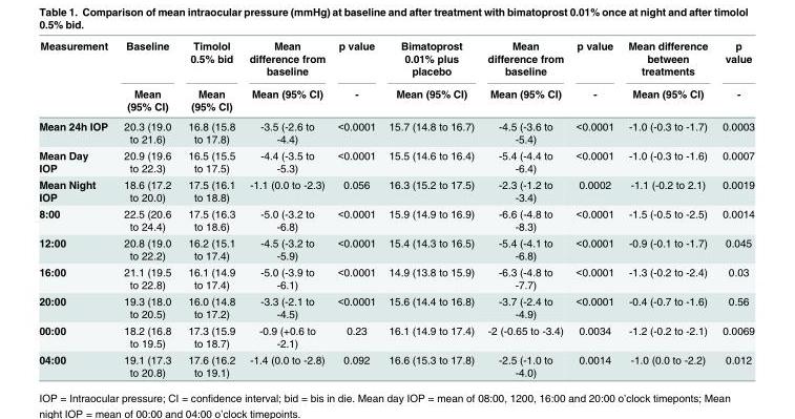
<table><thead><tr><td rowspan="2">Measurement</td><td rowspan="2">Baseline Mean (95% CI)</td><td rowspan="2">Timolol 0.5% bid Mean (95% CI)</td><td rowspan="2">Mean difference from baseline Mean (95% CI)</td><td rowspan="2">p value -</td><td rowspan="2">Bimatoprost 0.01% plus placebo Mean (95% CI)</td><td rowspan="2">Mean difference from baseline Mean (95% CI)</td><td rowspan="2">p value -</td><td rowspan="2">Mean difference between treatments Mean (95% CI)</td><td rowspan="2">p value -</td></tr><tr></tr></thead><tbody><tr><td>Mean 24h IOP</td><td>20.3 (19.0 to 21.6)</td><td>16.8 (15.8 to 17.8)</td><td>-3.5 (-2.6 to -4.4)</td><td>&lt;0.0001</td><td>15.7 (14.8 to 16.7)</td><td>-4.5 (-3.6 to -5.4)</td><td>&lt;0.0001</td><td>-1.0 (-0.3 to -1.7)</td><td>0.0003</td></tr><tr><td>Mean Day IOP</td><td>20.9 (19.6 to 22.3)</td><td>16.5 (15.5 to 17.5)</td><td>-4.4 (-3.5 to -5.3)</td><td>&lt;0.0001</td><td>15.5 (14.6 to 16.4)</td><td>-5.4 (-4.4 to -6.4)</td><td>&lt;0.0001</td><td>-1.0 (-0.3 to -1.6)</td><td>0.0007</td></tr><tr><td>Mean Night IOP</td><td>18.6 (17.2 to 20.0)</td><td>17.5 (16.1 to 18.8)</td><td>-1.1 (0.0 to -2.3)</td><td>0.056</td><td>16.3 (15.2 to 17.5)</td><td>-2.3 (-1.2 to -3.4)</td><td>0.0002</td><td>-1.1 (-0.2 to 2.1)</td><td>0.0019</td></tr><tr><td>8:00</td><td>22.5 (20.6 to 24.4)</td><td>17.5 (16.3 to 18.6)</td><td>-5.0 (-3.2 to -6.8)</td><td>&lt;0.0001</td><td>15.9 (14.9 to 16.9)</td><td>-6.6 (-4.8 to -8.3)</td><td>&lt;0.0001</td><td>-1.5 (-0.5 to -2.5)</td><td>0.0014</td></tr><tr><td>12:00</td><td>20.8 (19.0 to 22.2)</td><td>16.2 (15.1 to 17.4)</td><td>-4.5 (-3.2 to -5.9)</td><td>&lt;0.0001</td><td>15.4 (14.3 to 16.5)</td><td>-5.4 (-4.1 to -6.8)</td><td>&lt;0.0001</td><td>-0.9 (-0.1 to -1.7)</td><td>0.045</td></tr><tr><td>16:00</td><td>21.1 (19.5 to 22.8)</td><td>16.1 (14.9 to 17.4)</td><td>-5.0 (-3.9 to -6.1)</td><td>&lt;0.0001</td><td>14.9 (13.8 to 15.9)</td><td>-6.3 (-4.8 to -7.7)</td><td>&lt;0.0001</td><td>-1.3 (-0.2 to -2.4)</td><td>0.03</td></tr><tr><td>20:00</td><td>19.3 (18.0 to 20.5)</td><td>16.0 (14.8 to 17.2)</td><td>-3.3 (-2.1 to -4.5)</td><td>&lt;0.0001</td><td>15.6 (14.4 to 16.8)</td><td>-3.7 (-2.4 to -4.9)</td><td>&lt;0.0001</td><td>-0.4 (-0.7 to -1.6)</td><td>0.56</td></tr><tr><td>00:00</td><td>18.2 (16.8 to 19.5)</td><td>17.3 (15.9 to 18.7)</td><td>-0.9 (+0.6 to -2.1)</td><td>0.23</td><td>16.1 (14.9 to 17.4)</td><td>-2 (-0.65 to -3.4)</td><td>0.0034</td><td>-1.2 (-0.2 to -2.1)</td><td>0.0069</td></tr><tr><td>04:00</td><td>19.1 (17.3 to 20.8)</td><td>17.6 (16.2 to 19.1)</td><td>-1.4 (0.0 to -2.8)</td><td>0.092</td><td>16.6 (15.3 to 17.8)</td><td>-2.5 (-1.0 to -4.0)</td><td>0.0014</td><td>-1.0 (0.0 to -2.2)</td><td>0.012</td></tr></tbody></table>